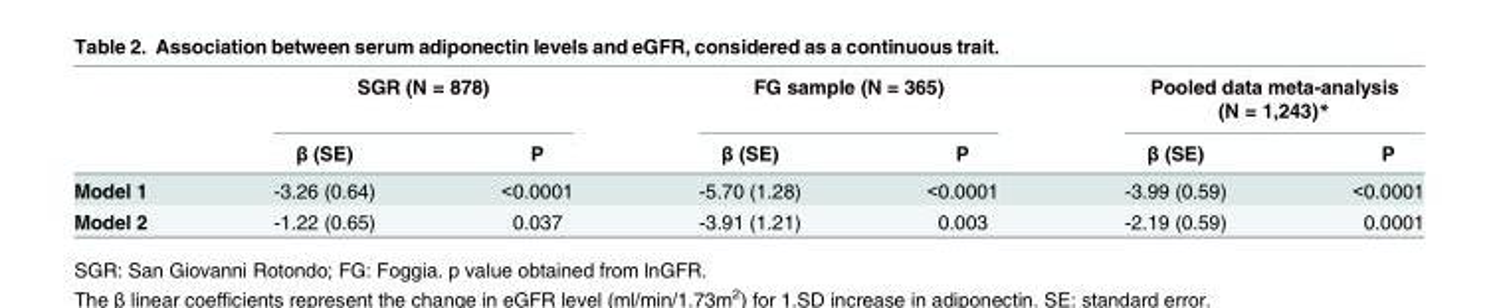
<table><thead><tr><td rowspan="2"></td><td colspan="2">SGR (N = 878)</td><td colspan="2">FG sample (N = 365)</td><td colspan="2">Pooled data meta-analysis (N = 1,243)*</td></tr><tr><td>β (SE)</td><td>P</td><td>β (SE)</td><td>P</td><td>β (SE)</td><td>P</td></tr></thead><tbody><tr><td>Model 1</td><td>-3.26 (0.64)</td><td>&lt;0.0001</td><td>-5.70 (1.28)</td><td>&lt;0.0001</td><td>-3.99 (0.59)</td><td>&lt;0.0001</td></tr><tr><td>Model 2</td><td>-1.22 (0.65)</td><td>0.037</td><td>-3.91 (1.21)</td><td>0.003</td><td>-2.19 (0.59)</td><td>0.0001</td></tr></tbody></table>